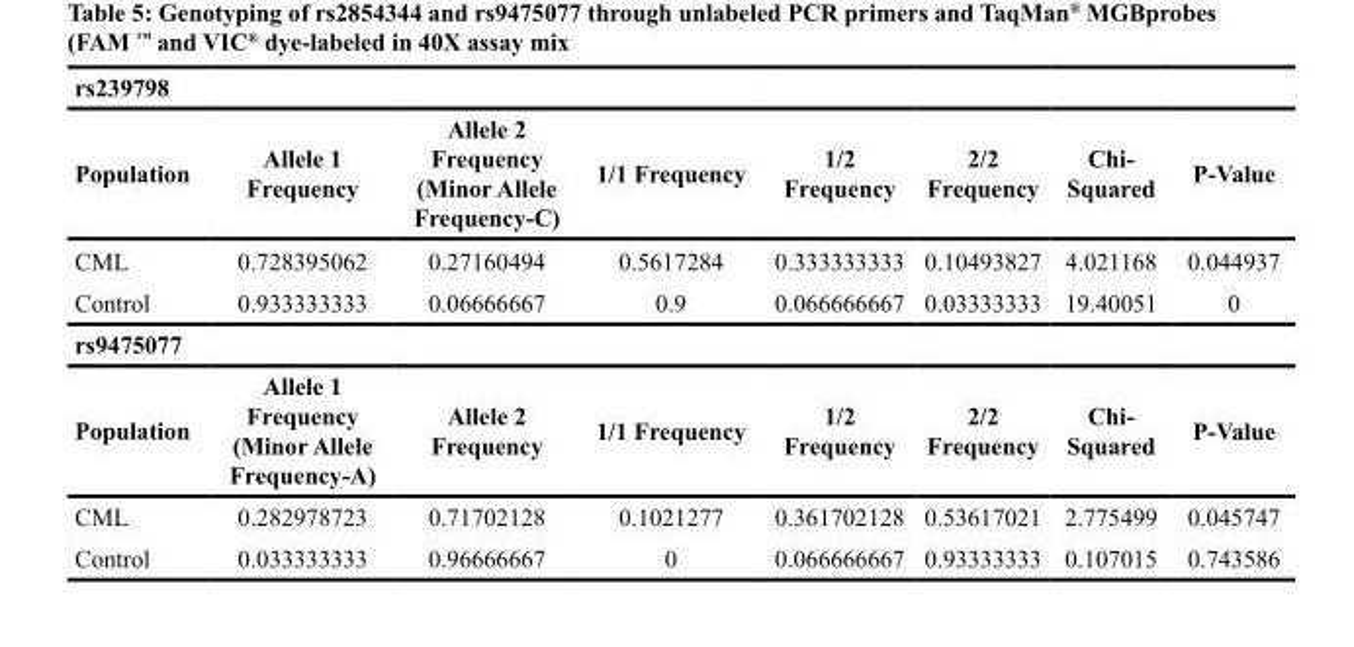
<table><thead><tr><td colspan="8">rs239798</td></tr><tr><td>Population</td><td>Allele 1 Frequency</td><td>Allele 2 Frequency (Minor Allele Frequency-C)</td><td>1/1 Frequency</td><td>1/2 Frequency</td><td>2/2 Frequency</td><td>Chi- Squared</td><td>P-Value</td></tr></thead><tbody><tr><td>CML</td><td>0.728395062</td><td>0.27160494</td><td>0.5617284</td><td>0.333333333</td><td>0.10493827</td><td>4.021168</td><td>0.044937</td></tr><tr><td>Control</td><td>0.933333333</td><td>0.06666667</td><td>0.9</td><td>0.066666667</td><td>0.03333333</td><td>19.40051</td><td>0</td></tr><tr><td colspan="8">rs9475077</td></tr><tr><td>Population</td><td>Allele 1 Frequency (Minor Allele Frequency-A)</td><td>Allele 2 Frequency</td><td>1/1 Frequency</td><td>1/2 Frequency</td><td>2/2 Frequency</td><td>Chi- Squared</td><td>P-Value</td></tr><tr><td>CML</td><td>0.282978723</td><td>0.71702128</td><td>0.1021277</td><td>0.361702128</td><td>0.53617021</td><td>2.775499</td><td>0.045747</td></tr><tr><td>Control</td><td>0.033333333</td><td>0.96666667</td><td>0</td><td>0.066666667</td><td>0.93333333</td><td>0.107015</td><td>0.743586</td></tr></tbody></table>